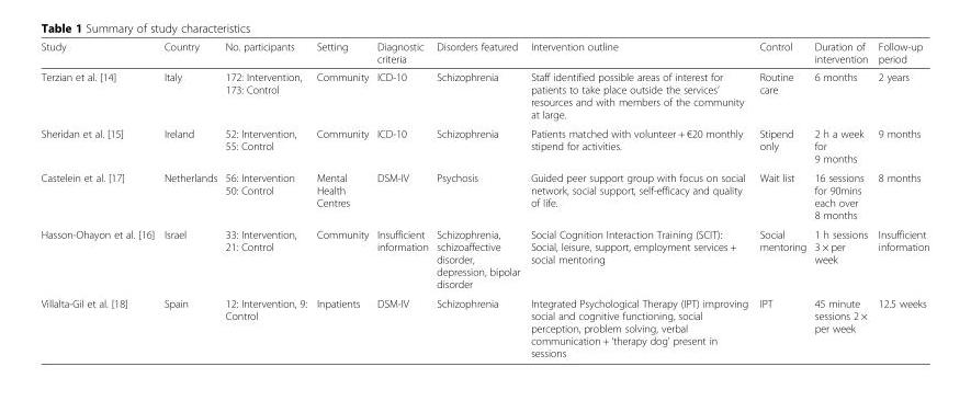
<table><thead><tr><td>Study</td><td>Country</td><td>No. participants</td><td>Setting</td><td>Diagnostic criteria</td><td>Disorders featured</td><td>Intervention outline</td><td>Control</td><td>Duration of intervention</td><td>Follow-up period</td></tr></thead><tbody><tr><td>Terzian et al. [14]</td><td>Italy</td><td>172: Intervention, 173: Control</td><td>Community</td><td>ICD-10</td><td>Schizophrenia</td><td>Staff identified possible areas of interest for patients to take place outside the services’ resources and with members of the community at large.</td><td>Routine care</td><td>6 months</td><td>2 years</td></tr><tr><td>Sheridan et al. [15]</td><td>Ireland</td><td>52: Intervention, 55: Control</td><td>Community</td><td>ICD-10</td><td>Schizophrenia</td><td>Patients matched with volunteer + €20 monthly stipend for activities.</td><td>Stipend only</td><td>2 h a week for 9 months</td><td>9 months</td></tr><tr><td>Castelein et al. [17]</td><td>Netherlands</td><td>56: Intervention 50: Control</td><td>Mental Health Centres</td><td>DSM-IV</td><td>Psychosis</td><td>Guided peer support group with focus on social network, social support, self-efficacy and quality of life.</td><td>Wait list</td><td>16 sessions for 90mins each over 8 months</td><td>8 months</td></tr><tr><td>Hasson-Ohayon et al. [16]</td><td>Israel</td><td>33: Intervention, 21: Control</td><td>Community</td><td>Insufficient information</td><td>Schizophrenia, schizoaffective disorder, depression, bipolar disorder</td><td>Social Cognition Interaction Training (SCIT): Social, leisure, support, employment services + social mentoring</td><td>Social mentoring</td><td>1 h sessions 3 × per week</td><td>Insufficient information</td></tr><tr><td>Villalta-Gil et al. [18]</td><td>Spain</td><td>12: Intervention, 9: Control</td><td>Inpatients</td><td>DSM-IV</td><td>Schizophrenia</td><td>Integrated Psychological Therapy (IPT) improving social and cognitive functioning, social perception, problem solving, verbal communication + ‘therapy dog’ present in sessions</td><td>IPT</td><td>45 minute sessions 2 × per week</td><td>12.5 weeks</td></tr></tbody></table>